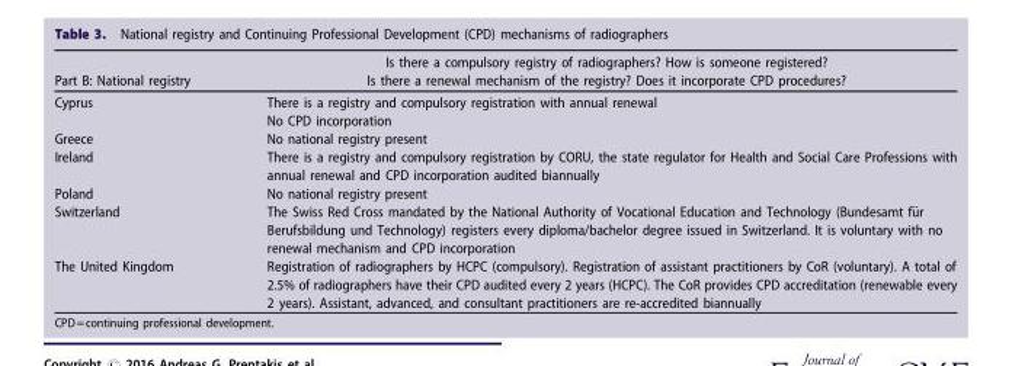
<table><thead><tr><td>Part B: National registry</td><td>Is there a compulsory registry of radiographers? How is someone registered? Is there a renewal mechanism of the registry? Does it incorporate CPD procedures?</td></tr></thead><tbody><tr><td>Cyprus</td><td>There is a registry and compulsory registration with annual renewal No CPD incorporation</td></tr><tr><td>Greece</td><td>No national registry present</td></tr><tr><td>Ireland</td><td>There is a registry and compulsory registration by CORU, the state regulator for Health and Social Care Professions with annual renewal and CPD incorporation audited biannually</td></tr><tr><td>Poland</td><td>No national registry present</td></tr><tr><td>Switzerland</td><td>The Swiss Red Cross mandated by the National Authority of Vocational Education and Technology (Bundesamt f€ur Berufsbildung und Technology) registers every diploma/bachelor degree issued in Switzerland. It is voluntary with no renewal mechanism and CPD incorporation</td></tr><tr><td>The United Kingdom</td><td>Registration of radiographers by HCPC (compulsory). Registration of assistant practitioners by CoR (voluntary). A total of 2.5% of radiographers have their CPD audited every 2 years (HCPC). The CoR provides CPD accreditation (renewable every 2 years). Assistant, advanced, and consultant practitioners are re-accredited biannually</td></tr></tbody></table>